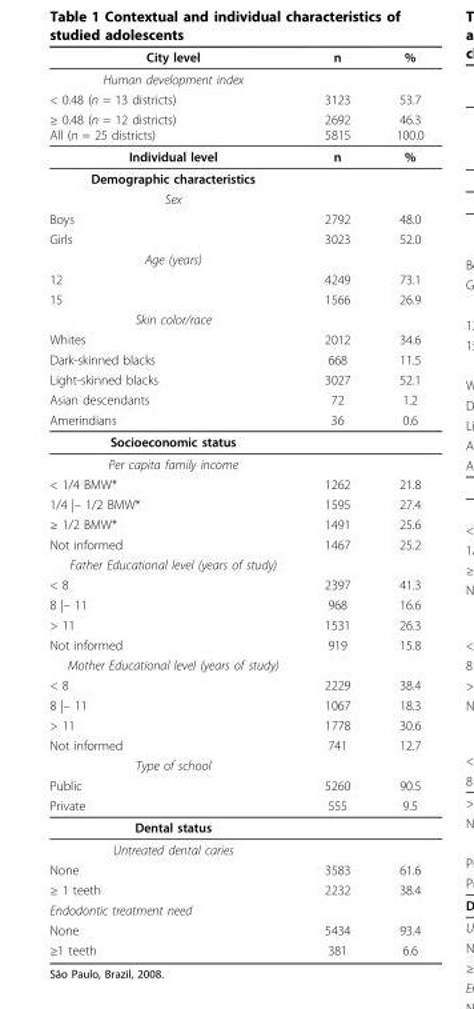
<table><thead><tr><td>City level</td><td>n</td><td>%</td></tr></thead><tbody><tr><td colspan="3">Human development index</td></tr><tr><td>&lt; 0.48 (n = 13 districts)</td><td>3123</td><td>53.7</td></tr><tr><td>≥ 0.48 (n = 12 districts) All (n = 25 districts)</td><td>2692 5815</td><td>46.3 100.0</td></tr><tr><td>Individual level</td><td>n</td><td>%</td></tr><tr><td colspan="3">Demographic characteristics</td></tr><tr><td colspan="3">Sex</td></tr><tr><td>Boys</td><td>2792</td><td>48.0</td></tr><tr><td>Girls</td><td>3023</td><td>52.0</td></tr><tr><td colspan="3">Age (years)</td></tr><tr><td>12</td><td>4249</td><td>73.1</td></tr><tr><td>15</td><td>1566</td><td>26.9</td></tr><tr><td colspan="3">Skin color/race</td></tr><tr><td>Whites</td><td>2012</td><td>34.6</td></tr><tr><td>Dark-skinned blacks</td><td>668</td><td>11.5</td></tr><tr><td>Light-skinned blacks</td><td>3027</td><td>52.1</td></tr><tr><td>Asian descendants</td><td>72</td><td>1.2</td></tr><tr><td>Amerindians</td><td>36</td><td>0.6</td></tr><tr><td colspan="3">Socioeconomic status</td></tr><tr><td colspan="3">Per capita family income</td></tr><tr><td>&lt; 1/4 BMW*</td><td>1262</td><td>21.8</td></tr><tr><td>1/4 |– 1/2 BMW*</td><td>1595</td><td>27.4</td></tr><tr><td>≥ 1/2 BMW*</td><td>1491</td><td>25.6</td></tr><tr><td>Not informed</td><td>1467</td><td>25.2</td></tr><tr><td colspan="3">Father Educational level (years of study)</td></tr><tr><td>&lt; 8</td><td>2397</td><td>41.3</td></tr><tr><td>8 |– 11</td><td>968</td><td>16.6</td></tr><tr><td>&gt; 11</td><td>1531</td><td>26.3</td></tr><tr><td>Not informed</td><td>919</td><td>15.8</td></tr><tr><td colspan="3">Mother Educational level (years of study)</td></tr><tr><td>&lt; 8</td><td>2229</td><td>38.4</td></tr><tr><td>8 |– 11</td><td>1067</td><td>18.3</td></tr><tr><td>&gt; 11</td><td>1778</td><td>30.6</td></tr><tr><td>Not informed</td><td>741</td><td>12.7</td></tr><tr><td colspan="3">Type of school</td></tr><tr><td>Public</td><td>5260</td><td>90.5</td></tr><tr><td>Private</td><td>555</td><td>9.5</td></tr><tr><td colspan="3">Dental status</td></tr><tr><td colspan="3">Untreated dental caries</td></tr><tr><td>None</td><td>3583</td><td>61.6</td></tr><tr><td>≥ 1 teeth</td><td>2232</td><td>38.4</td></tr><tr><td colspan="3">Endodontic treatment need</td></tr><tr><td>None</td><td>5434</td><td>93.4</td></tr><tr><td>≥1 teeth</td><td>381</td><td>6.6</td></tr></tbody></table>